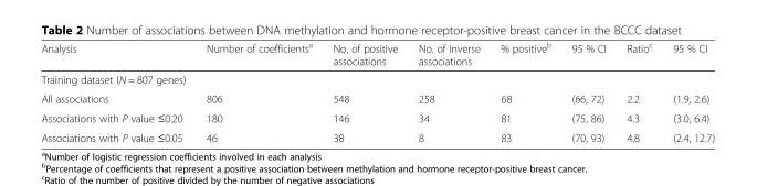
<table><thead><tr><td>Analysis</td><td>Number of coefficients<sup>a</sup></td><td>No. of positive associations</td><td>No. of inverse associations</td><td>% positive<sup>b</sup></td><td>95 % CI</td><td>Ratio<sup>c</sup></td><td>95 % CI</td></tr></thead><tbody><tr><td colspan="8">Training dataset (N = 807 genes)</td></tr><tr><td>All associations</td><td>806</td><td>548</td><td>258</td><td>68</td><td>(66, 72)</td><td>2.2</td><td>(1.9, 2.6)</td></tr><tr><td>Associations with P value ≤0.20</td><td>180</td><td>146</td><td>34</td><td>81</td><td>(75, 86)</td><td>4.3</td><td>(3.0, 6.4)</td></tr><tr><td>Associations with P value ≤0.05</td><td>46</td><td>38</td><td>8</td><td>83</td><td>(70, 93)</td><td>4.8</td><td>(2.4, 12.7)</td></tr></tbody></table>